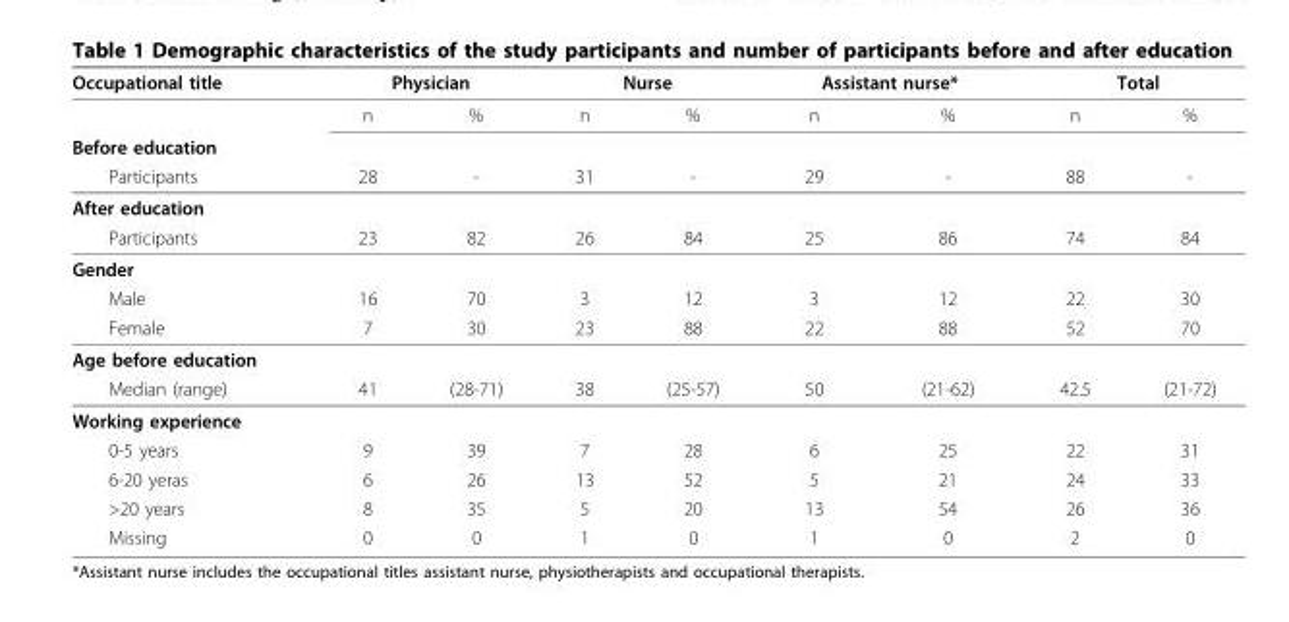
<table><thead><tr><td rowspan="2">Occupational title</td><td colspan="2">Physician</td><td colspan="2">Nurse</td><td colspan="2">Assistant nurse*</td><td colspan="2">Total</td></tr><tr><td>n</td><td>%</td><td>n</td><td>%</td><td>n</td><td>%</td><td>n</td><td>%</td></tr></thead><tbody><tr><td colspan="9">Before education</td></tr><tr><td>Participants</td><td>28</td><td>-</td><td>31</td><td>-</td><td>29</td><td>-</td><td>88</td><td>-</td></tr><tr><td colspan="9">After education</td></tr><tr><td>Participants</td><td>23</td><td>82</td><td>26</td><td>84</td><td>25</td><td>86</td><td>74</td><td>84</td></tr><tr><td colspan="9">Gender</td></tr><tr><td>Male</td><td>16</td><td>70</td><td>3</td><td>12</td><td>3</td><td>12</td><td>22</td><td>30</td></tr><tr><td>Female</td><td>7</td><td>30</td><td>23</td><td>88</td><td>22</td><td>88</td><td>52</td><td>70</td></tr><tr><td colspan="9">Age before education</td></tr><tr><td>Median (range)</td><td>41</td><td>(28-71)</td><td>38</td><td>(25-57)</td><td>50</td><td>(21-62)</td><td>42.5</td><td>(21-72)</td></tr><tr><td colspan="9">Working experience</td></tr><tr><td>0-5 years</td><td>9</td><td>39</td><td>7</td><td>28</td><td>6</td><td>25</td><td>22</td><td>31</td></tr><tr><td>6-20 yeras</td><td>6</td><td>26</td><td>13</td><td>52</td><td>5</td><td>21</td><td>24</td><td>33</td></tr><tr><td>&gt;20 years</td><td>8</td><td>35</td><td>5</td><td>20</td><td>13</td><td>54</td><td>26</td><td>36</td></tr><tr><td>Missing</td><td>0</td><td>0</td><td>1</td><td>0</td><td>1</td><td>0</td><td>2</td><td>0</td></tr></tbody></table>